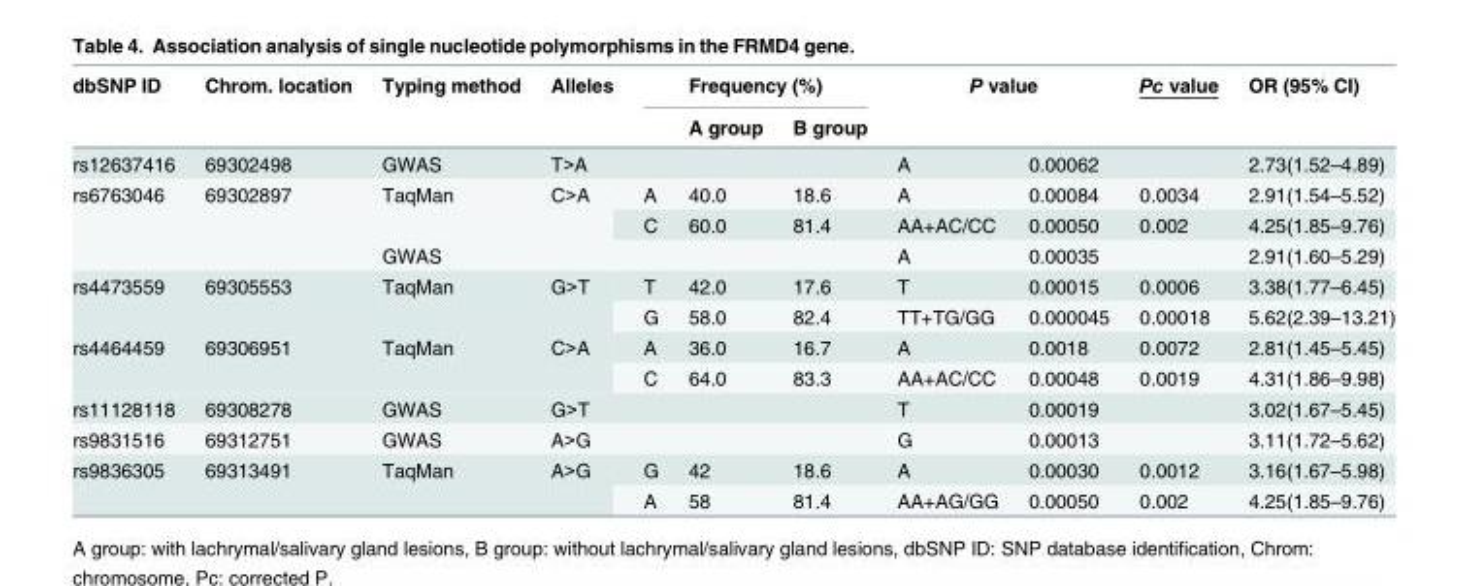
<table><thead><tr><td rowspan="3">dbSNP ID rs12637416</td><td rowspan="3">Chrom. location 69302498</td><td rowspan="3">Typing method GWAS</td><td rowspan="3">Alleles T&gt;A</td><td colspan="3">Frequency (%)</td><td rowspan="2" colspan="2">P value</td><td rowspan="3">Pc value</td><td rowspan="3">OR (95% CI) 2.73(1.52–4.89)</td></tr><tr><td rowspan="2"></td><td rowspan="2">A group</td><td rowspan="2">B group</td></tr><tr><td>A</td><td>0.00062</td></tr></thead><tbody><tr><td rowspan="3">rs6763046</td><td rowspan="3">69302897</td><td rowspan="2">TaqMan</td><td rowspan="3">C&gt;A</td><td>A</td><td>40.0</td><td>18.6</td><td>A</td><td>0.00084</td><td>0.0034</td><td>2.91(1.54–5.52)</td></tr><tr><td>C</td><td>60.0</td><td>81.4</td><td>AA+AC/CC</td><td>0.00050</td><td>0.002</td><td>4.25(1.85–9.76)</td></tr><tr><td>GWAS</td><td></td><td></td><td></td><td>A</td><td>0.00035</td><td></td><td>2.91(1.60–5.29)</td></tr><tr><td rowspan="2">rs4473559</td><td rowspan="2">69305553</td><td rowspan="2">TaqMan</td><td rowspan="2">G&gt;T</td><td>T</td><td>42.0</td><td>17.6</td><td>T</td><td>0.00015</td><td>0.0006</td><td>3.38(1.77–6.45)</td></tr><tr><td>G</td><td>58.0</td><td>82.4</td><td>TT+TG/GG</td><td>0.000045</td><td>0.00018</td><td>5.62(2.39–13.21)</td></tr><tr><td rowspan="2">rs4464459</td><td rowspan="2">69306951</td><td rowspan="2">TaqMan</td><td rowspan="2">C&gt;A</td><td>A</td><td>36.0</td><td>16.7</td><td>A</td><td>0.0018</td><td>0.0072</td><td>2.81(1.45–5.45)</td></tr><tr><td>C</td><td>64.0</td><td>83.3</td><td>AA+AC/CC</td><td>0.00048</td><td>0.0019</td><td>4.31(1.86–9.98)</td></tr><tr><td>rs11128118</td><td>69308278</td><td>GWAS</td><td>G&gt;T</td><td></td><td></td><td></td><td>T</td><td>0.00019</td><td></td><td>3.02(1.67–5.45)</td></tr><tr><td>rs9831516</td><td>69312751</td><td>GWAS</td><td>A&gt;G</td><td></td><td></td><td></td><td>G</td><td>0.00013</td><td></td><td>3.11(1.72–5.62)</td></tr><tr><td rowspan="2">rs9836305</td><td rowspan="2">69313491</td><td rowspan="2">TaqMan</td><td rowspan="2">A&gt;G</td><td>G</td><td>42</td><td>18.6</td><td>A</td><td>0.00030</td><td>0.0012</td><td>3.16(1.67–5.98)</td></tr><tr><td>A</td><td>58</td><td>81.4</td><td>AA+AG/GG</td><td>0.00050</td><td>0.002</td><td>4.25(1.85–9.76)</td></tr></tbody></table>